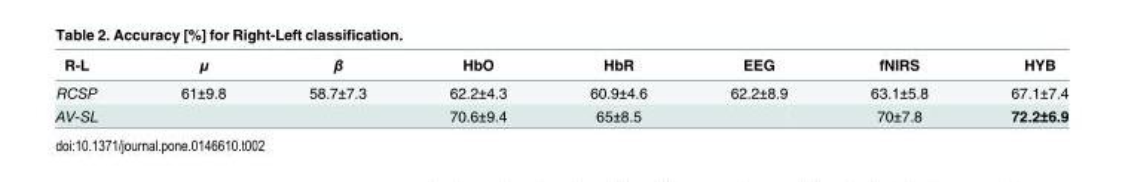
<table><thead><tr><td>R-L</td><td>μ</td><td>β</td><td>HbO</td><td>HbR</td><td>EEG</td><td>fNIRS</td><td>HYB</td></tr></thead><tbody><tr><td>RCSP</td><td>61±9.8</td><td>58.7±7.3</td><td>62.2±4.3</td><td>60.9±4.6</td><td>62.2±8.9</td><td>63.1±5.8</td><td>67.1±7.4</td></tr><tr><td>AV-SL</td><td></td><td></td><td>70.6±9.4</td><td>65±8.5</td><td></td><td>70±7.8</td><td>72.2±6.9</td></tr></tbody></table>